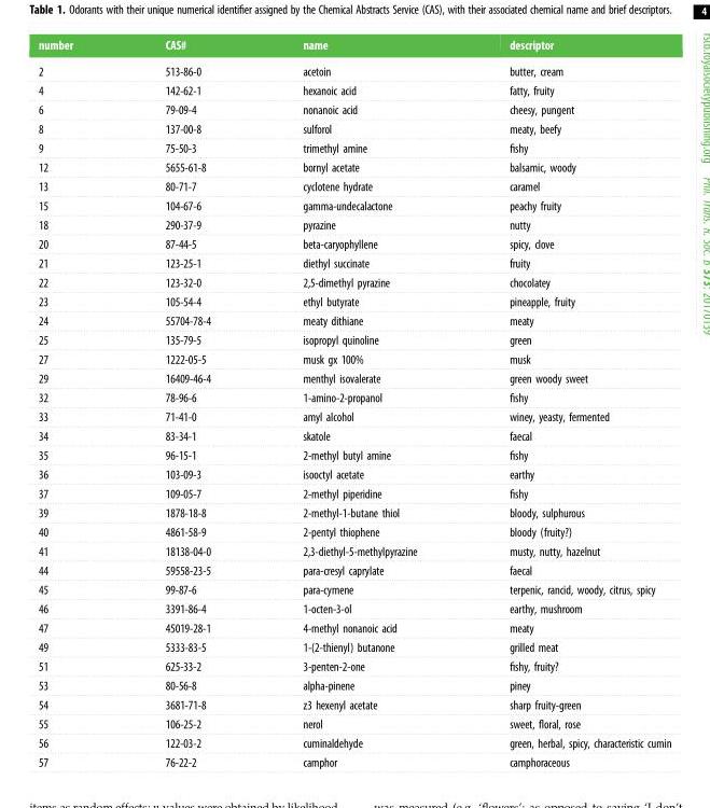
<table><thead><tr><td>number</td><td>CAS#</td><td>name</td><td>descriptor</td></tr></thead><tbody><tr><td>2</td><td>513-86-0</td><td>acetoin</td><td>butter, cream</td></tr><tr><td>4</td><td>142-62-1</td><td>hexanoic acid</td><td>fatty, fruity</td></tr><tr><td>6</td><td>79-09-4</td><td>nonanoic acid</td><td>cheesy, pungent</td></tr><tr><td>8</td><td>137-00-8</td><td>sulforol</td><td>meaty, beefy</td></tr><tr><td>9</td><td>75-50-3</td><td>trimethyl amine</td><td>fishy</td></tr><tr><td>12</td><td>5655-61-8</td><td>bornyl acetate</td><td>balsamic, woody</td></tr><tr><td>13</td><td>80-71-7</td><td>cyclotene hydrate</td><td>caramel</td></tr><tr><td>15</td><td>104-67-6</td><td>gamma-undecalactone</td><td>peachy fruity</td></tr><tr><td>18</td><td>290-37-9</td><td>pyrazine</td><td>nutty</td></tr><tr><td>20</td><td>87-44-5</td><td>beta-caryophyllene</td><td>spicy, clove</td></tr><tr><td>21</td><td>123-25-1</td><td>diethyl succinate</td><td>fruity</td></tr><tr><td>22</td><td>123-32-0</td><td>2,5-dimethyl pyrazine</td><td>chocolatey</td></tr><tr><td>23</td><td>105-54-4</td><td>ethyl butyrate</td><td>pineapple, fruity</td></tr><tr><td>24</td><td>55704-78-4</td><td>meaty dithiane</td><td>meaty</td></tr><tr><td>25</td><td>135-79-5</td><td>isopropyl quinoline</td><td>green</td></tr><tr><td>27</td><td>1222-05-5</td><td>musk gx 100%</td><td>musk</td></tr><tr><td>29</td><td>16409-46-4</td><td>menthyl isovalerate</td><td>green woody sweet</td></tr><tr><td>32</td><td>78-96-6</td><td>1-amino-2-propanol</td><td>fishy</td></tr><tr><td>33</td><td>71-41-0</td><td>amyl alcohol</td><td>winey, yeasty, fermented</td></tr><tr><td>34</td><td>83-34-1</td><td>skatole</td><td>faecal</td></tr><tr><td>35</td><td>96-15-1</td><td>2-methyl butyl amine</td><td>fishy</td></tr><tr><td>36</td><td>103-09-3</td><td>isooctyl acetate</td><td>earthy</td></tr><tr><td>37</td><td>109-05-7</td><td>2-methyl piperidine</td><td>fishy</td></tr><tr><td>39</td><td>1878-18-8</td><td>2-methyl-1-butane thiol</td><td>bloody, sulphurous</td></tr><tr><td>40</td><td>4861-58-9</td><td>2-pentyl thiophene</td><td>bloody (fruity?)</td></tr><tr><td>41</td><td>18138-04-0</td><td>2,3-diethyl-5-methylpyrazine</td><td>musty, nutty, hazelnut</td></tr><tr><td>44</td><td>59558-23-5</td><td>para-cresyl caprylate</td><td>faecal</td></tr><tr><td>45</td><td>99-87-6</td><td>para-cymene</td><td>terpenic, rancid, woody, citrus, spicy</td></tr><tr><td>46</td><td>3391-86-4</td><td>1-octen-3-ol</td><td>earthy, mushroom</td></tr><tr><td>47</td><td>45019-28-1</td><td>4-methyl nonanoic acid</td><td>meaty</td></tr><tr><td>49</td><td>5333-83-5</td><td>1-(2-thienyl) butanone</td><td>grilled meat</td></tr><tr><td>51</td><td>625-33-2</td><td>3-penten-2-one</td><td>fishy, fruity?</td></tr><tr><td>53</td><td>80-56-8</td><td>alpha-pinene</td><td>piney</td></tr><tr><td>54</td><td>3681-71-8</td><td>z3 hexenyl acetate</td><td>sharp fruity-green</td></tr><tr><td>55</td><td>106-25-2</td><td>nerol</td><td>sweet, floral, rose</td></tr><tr><td>56</td><td>122-03-2</td><td>cuminaldehyde</td><td>green, herbal, spicy, characteristic cumin</td></tr><tr><td>57</td><td>76-22-2</td><td>camphor</td><td>camphoraceous</td></tr></tbody></table>